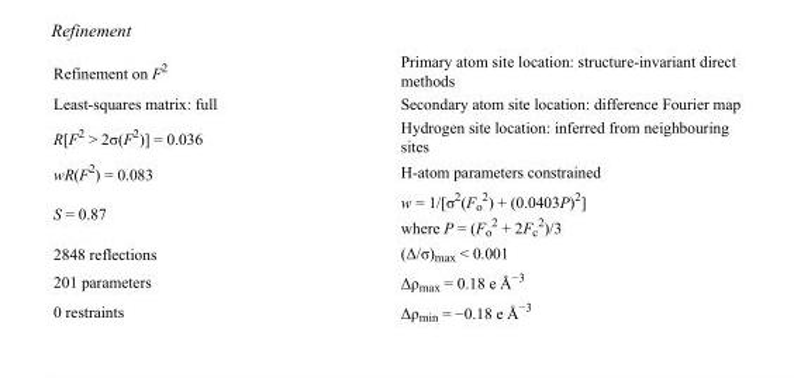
<table><tbody><tr><td>Refinement on F<sup>2</sup></td><td>Primary atom site location: structure-invariant direct methods</td></tr><tr><td>Least-squares matrix: full</td><td>Secondary atom site location: difference Fourier map</td></tr><tr><td>R[F<sup>2</sup> &gt; 2σ(F<sup>2</sup>)] = 0.036</td><td>Hydrogen site location: inferred from neighbouring sites</td></tr><tr><td>wR(F<sup>2</sup>) = 0.083</td><td>H-atom parameters constrained</td></tr><tr><td>S = 0.87</td><td>w = 1/[σ<sup>2</sup>(F<sub>o</sub> <sup>2</sup>) + (0.0403P)<sup>2</sup>] where P = (F<sub>o</sub> <sup>2</sup> + 2F<sub>c</sub> <sup>2</sup>)/3</td></tr><tr><td>2848 reflections</td><td>(Δ/σ)<sub>max</sub> &lt; 0.001</td></tr><tr><td>201 parameters</td><td>Δρ<sub>max</sub> = 0.18 e Å<sup>−3</sup></td></tr><tr><td>0 restraints</td><td>Δρ<sub>min</sub> = −0.18 e Å<sup>−3</sup></td></tr></tbody></table>